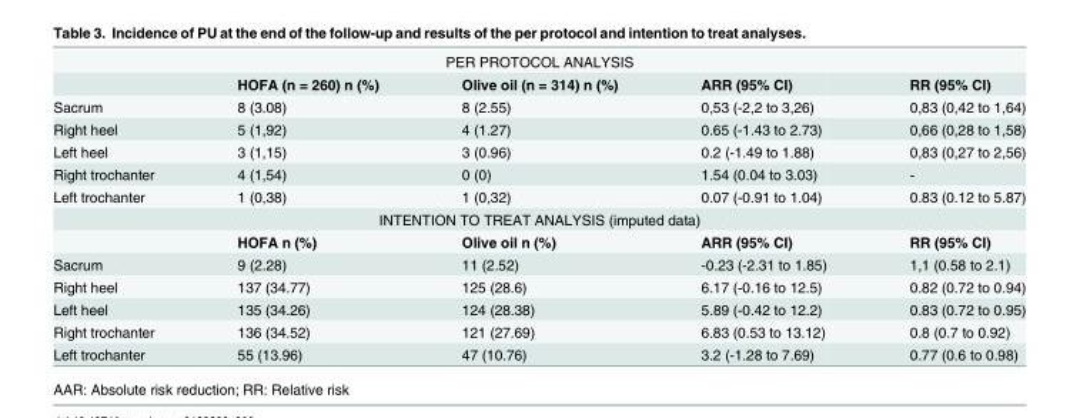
<table><tbody><tr><td colspan="5">PER PROTOCOL ANALYSIS</td></tr><tr><td></td><td>HOFA (n = 260) n (%)</td><td>Olive oil (n = 314) n (%)</td><td>ARR (95% CI)</td><td>RR (95% CI)</td></tr><tr><td>Sacrum</td><td>8 (3.08)</td><td>8 (2.55)</td><td>0,53 (-2,2 to 3,26)</td><td>0,83 (0,42 to 1,64)</td></tr><tr><td>Right heel</td><td>5 (1,92)</td><td>4 (1.27)</td><td>0.65 (-1.43 to 2.73)</td><td>0,66 (0,28 to 1,58)</td></tr><tr><td>Left heel</td><td>3 (1,15)</td><td>3 (0.96)</td><td>0.2 (-1.49 to 1.88)</td><td>0,83 (0,27 to 2,56)</td></tr><tr><td>Right trochanter</td><td>4 (1,54)</td><td>0 (0)</td><td>1.54 (0.04 to 3.03)</td><td>-</td></tr><tr><td>Left trochanter</td><td>1 (0,38)</td><td>1 (0,32)</td><td>0.07 (-0.91 to 1.04)</td><td>0.83 (0.12 to 5.87)</td></tr><tr><td colspan="5">INTENTION TO TREAT ANALYSIS (imputed data)</td></tr><tr><td></td><td>HOFA n (%)</td><td>Olive oil n (%)</td><td>ARR (95% CI)</td><td>RR (95% CI)</td></tr><tr><td>Sacrum</td><td>9 (2.28)</td><td>11 (2.52)</td><td>-0.23 (-2.31 to 1.85)</td><td>1,1 (0.58 to 2.1)</td></tr><tr><td>Right heel</td><td>137 (34.77)</td><td>125 (28.6)</td><td>6.17 (-0.16 to 12.5)</td><td>0.82 (0.72 to 0.94)</td></tr><tr><td>Left heel</td><td>135 (34.26)</td><td>124 (28.38)</td><td>5.89 (-0.42 to 12.2)</td><td>0.83 (0.72 to 0.95)</td></tr><tr><td>Right trochanter</td><td>136 (34.52)</td><td>121 (27.69)</td><td>6.83 (0.53 to 13.12)</td><td>0.8 (0.7 to 0.92)</td></tr><tr><td>Left trochanter</td><td>55 (13.96)</td><td>47 (10.76)</td><td>3.2 (-1.28 to 7.69)</td><td>0.77 (0.6 to 0.98)</td></tr></tbody></table>